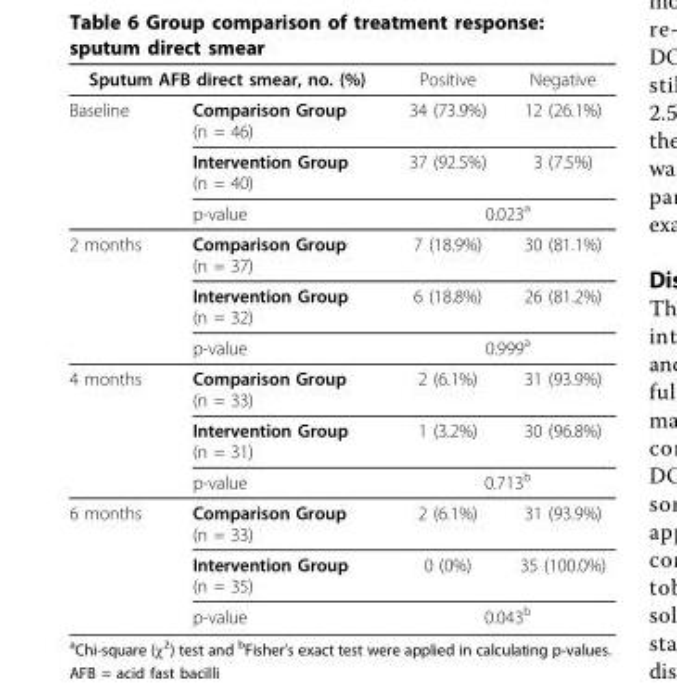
<table><thead><tr><td colspan="2">Sputum AFB direct smear, no. (%)</td><td rowspan="2">Positive 34 (73.9%)</td><td rowspan="2">Negative 12 (26.1%)</td></tr><tr><td>Baseline</td><td>Comparison Group (n = 46)</td></tr></thead><tbody><tr><td></td><td>Intervention Group (n = 40)</td><td>37 (92.5%)</td><td>3 (7.5%)</td></tr><tr><td></td><td>p-value</td><td colspan="2">0.023a</td></tr><tr><td rowspan="3">2 months</td><td>Comparison Group (n = 37)</td><td>7 (18.9%)</td><td>30 (81.1%)</td></tr><tr><td>Intervention Group (n = 32)</td><td>6 (18.8%)</td><td>26 (81.2%)</td></tr><tr><td>p-value</td><td colspan="2">0.999<sup>a</sup></td></tr><tr><td rowspan="3">4 months</td><td>Comparison Group (n = 33)</td><td>2 (6.1%)</td><td>31 (93.9%)</td></tr><tr><td>Intervention Group (n = 31)</td><td>1 (3.2%)</td><td>30 (96.8%)</td></tr><tr><td>p-value</td><td colspan="2">0.713<sup>b</sup></td></tr><tr><td rowspan="3">6 months</td><td>Comparison Group (n = 33)</td><td>2 (6.1%)</td><td>31 (93.9%)</td></tr><tr><td>Intervention Group (n = 35)</td><td>0 (0%)</td><td>35 (100.0%)</td></tr><tr><td>p-value</td><td colspan="2">0.043<sup>b</sup></td></tr></tbody></table>